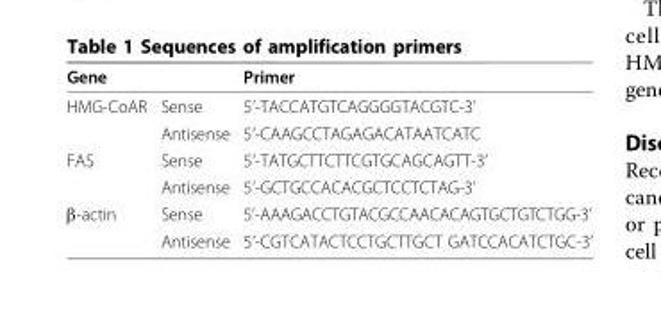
<table><thead><tr><td>Gene</td><td></td><td>Primer</td></tr></thead><tbody><tr><td rowspan="2">HMG-CoAR</td><td>Sense</td><td>5’-TACCATGTCAGGGGTACGTC-3’</td></tr><tr><td>Antisense</td><td>5’-CAAGCCTAGAGACATAATCATC</td></tr><tr><td rowspan="2">FAS</td><td>Sense</td><td>5’-TATGCTTCTTCGTGCAGCAGTT-3’</td></tr><tr><td>Antisense</td><td>5’-GCTGCCACACGCTCCTCTAG-3’</td></tr><tr><td rowspan="2">β-actin</td><td>Sense</td><td>5’-AAAGACCTGTACGCCAACACAGTGCTGTCTGG-3’</td></tr><tr><td>Antisense</td><td>5’-CGTCATACTCCTGCTTGCT GATCCACATCTGC-3’</td></tr></tbody></table>